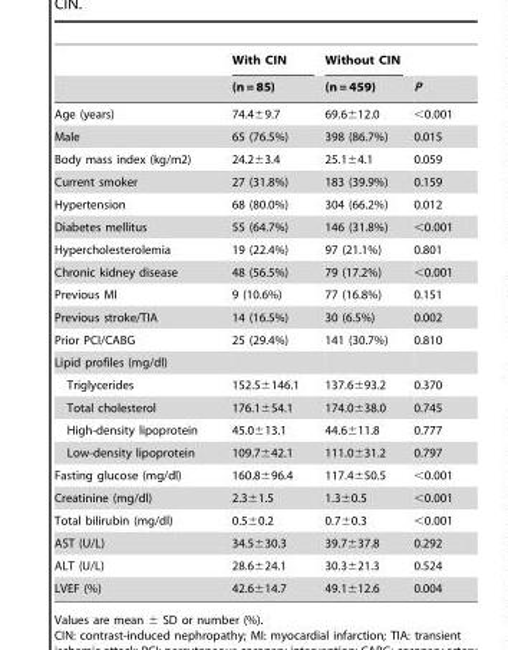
<table><thead><tr><td rowspan="2"></td><td rowspan="2">With CIN (n = 85)</td><td rowspan="2">Without CIN (n = 459)</td><td rowspan="2">P</td></tr><tr></tr></thead><tbody><tr><td>Age (years)</td><td>74.4±9.7</td><td>69.6±12.0</td><td>&lt;0.001</td></tr><tr><td>Male</td><td>65 (76.5%)</td><td>398 (86.7%)</td><td>0.015</td></tr><tr><td>Body mass index (kg/m2)</td><td>24.2±3.4</td><td>25.1±4.1</td><td>0.059</td></tr><tr><td>Current smoker</td><td>27 (31.8%)</td><td>183 (39.9%)</td><td>0.159</td></tr><tr><td>Hypertension</td><td>68 (80.0%)</td><td>304 (66.2%)</td><td>0.012</td></tr><tr><td>Diabetes mellitus</td><td>55 (64.7%)</td><td>146 (31.8%)</td><td>&lt;0.001</td></tr><tr><td>Hypercholesterolemia</td><td>19 (22.4%)</td><td>97 (21.1%)</td><td>0.801</td></tr><tr><td>Chronic kidney disease</td><td>48 (56.5%)</td><td>79 (17.2%)</td><td>&lt;0.001</td></tr><tr><td>Previous MI</td><td>9 (10.6%)</td><td>77 (16.8%)</td><td>0.151</td></tr><tr><td>Previous stroke/TIA</td><td>14 (16.5%)</td><td>30 (6.5%)</td><td>0.002</td></tr><tr><td>Prior PCI/CABG</td><td>25 (29.4%)</td><td>141 (30.7%)</td><td>0.810</td></tr><tr><td colspan="4">Lipid profiles (mg/dl)</td></tr><tr><td>Triglycerides</td><td>152.5±146.1</td><td>137.6±93.2</td><td>0.370</td></tr><tr><td>Total cholesterol</td><td>176.1±54.1</td><td>174.0±38.0</td><td>0.745</td></tr><tr><td>High-density lipoprotein</td><td>45.0±13.1</td><td>44.6±11.8</td><td>0.777</td></tr><tr><td>Low-density lipoprotein</td><td>109.7±42.1</td><td>111.0±31.2</td><td>0.797</td></tr><tr><td>Fasting glucose (mg/dl)</td><td>160.8±96.4</td><td>117.4±50.5</td><td>&lt;0.001</td></tr><tr><td>Creatinine (mg/dl)</td><td>2.3±1.5</td><td>1.3±0.5</td><td>&lt;0.001</td></tr><tr><td>Total bilirubin (mg/dl)</td><td>0.5±0.2</td><td>0.7±0.3</td><td>&lt;0.001</td></tr><tr><td>AST (U/L)</td><td>34.5±30.3</td><td>39.7±37.8</td><td>0.292</td></tr><tr><td>ALT (U/L)</td><td>28.6±24.1</td><td>30.3±21.3</td><td>0.524</td></tr><tr><td>LVEF (%)</td><td>42.6±14.7</td><td>49.1±12.6</td><td>0.004</td></tr></tbody></table>